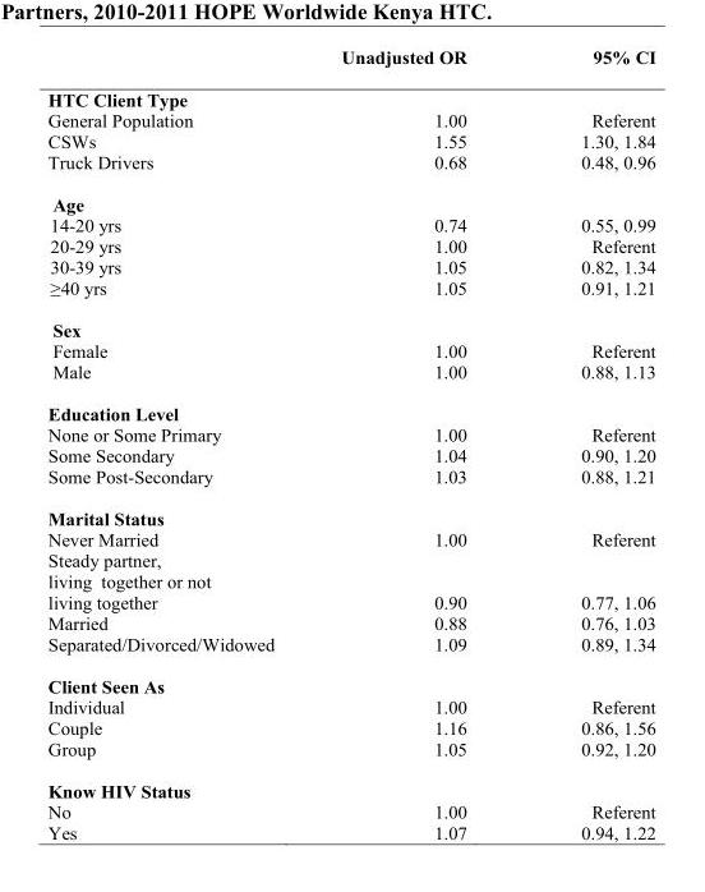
<table><thead><tr><td></td><td>Unadjusted OR</td><td>95% CI</td></tr></thead><tbody><tr><td colspan="3">HTC Client Type</td></tr><tr><td>General Population</td><td>1.00</td><td>Referent</td></tr><tr><td>CSWs</td><td>1.55</td><td>1.30, 1.84</td></tr><tr><td>Truck Drivers</td><td>0.68</td><td>0.48, 0.96</td></tr><tr><td colspan="3">Age</td></tr><tr><td>14-20 yrs</td><td>0.74</td><td>0.55, 0.99</td></tr><tr><td>20-29 yrs</td><td>1.00</td><td>Referent</td></tr><tr><td>30-39 yrs</td><td>1.05</td><td>0.82, 1.34</td></tr><tr><td>≥40 yrs</td><td>1.05</td><td>0.91, 1.21</td></tr><tr><td colspan="3">Sex</td></tr><tr><td>Female</td><td>1.00</td><td>Referent</td></tr><tr><td>Male</td><td>1.00</td><td>0.88, 1.13</td></tr><tr><td colspan="3">Education Level</td></tr><tr><td>None or Some Primary</td><td>1.00</td><td>Referent</td></tr><tr><td>Some Secondary</td><td>1.04</td><td>0.90, 1.20</td></tr><tr><td>Some Post-Secondary</td><td>1.03</td><td>0.88, 1.21</td></tr><tr><td colspan="3">Marital Status</td></tr><tr><td>Never Married</td><td>1.00</td><td>Referent</td></tr><tr><td>Steady partner, living together or not living together</td><td>0.90</td><td>0.77, 1.06</td></tr><tr><td>Married</td><td>0.88</td><td>0.76, 1.03</td></tr><tr><td>Separated/Divorced/Widowed</td><td>1.09</td><td>0.89, 1.34</td></tr><tr><td colspan="3">Client Seen As</td></tr><tr><td>Individual</td><td>1.00</td><td>Referent</td></tr><tr><td>Couple</td><td>1.16</td><td>0.86, 1.56</td></tr><tr><td>Group</td><td>1.05</td><td>0.92, 1.20</td></tr><tr><td colspan="3">Know HIV Status</td></tr><tr><td>No</td><td>1.00</td><td>Referent</td></tr><tr><td>Yes</td><td>1.07</td><td>0.94, 1.22</td></tr></tbody></table>